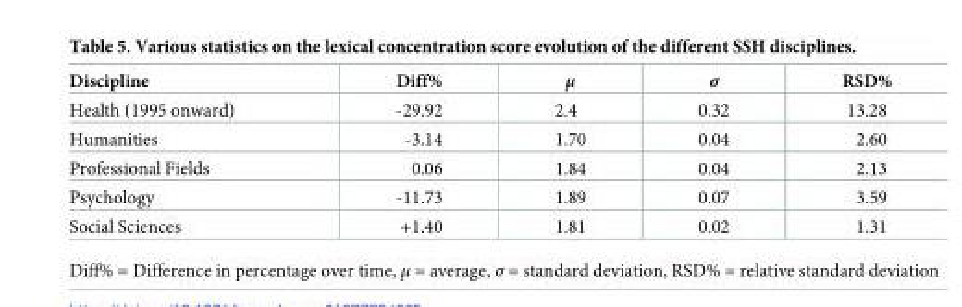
<table><thead><tr><td>Discipline</td><td>Diff%</td><td>μ</td><td>σ</td><td>RSD%</td></tr></thead><tbody><tr><td>Health (1995 onward)</td><td>-29.92</td><td>2.4</td><td>0.32</td><td>13.28</td></tr><tr><td>Humanities</td><td>-3.14</td><td>1.70</td><td>0.04</td><td>2.60</td></tr><tr><td>Professional Fields</td><td>0.06</td><td>1.84</td><td>0.04</td><td>2.13</td></tr><tr><td>Psychology</td><td>-11.73</td><td>1.89</td><td>0.07</td><td>3.59</td></tr><tr><td>Social Sciences</td><td>+1.40</td><td>1.81</td><td>0.02</td><td>1.31</td></tr></tbody></table>